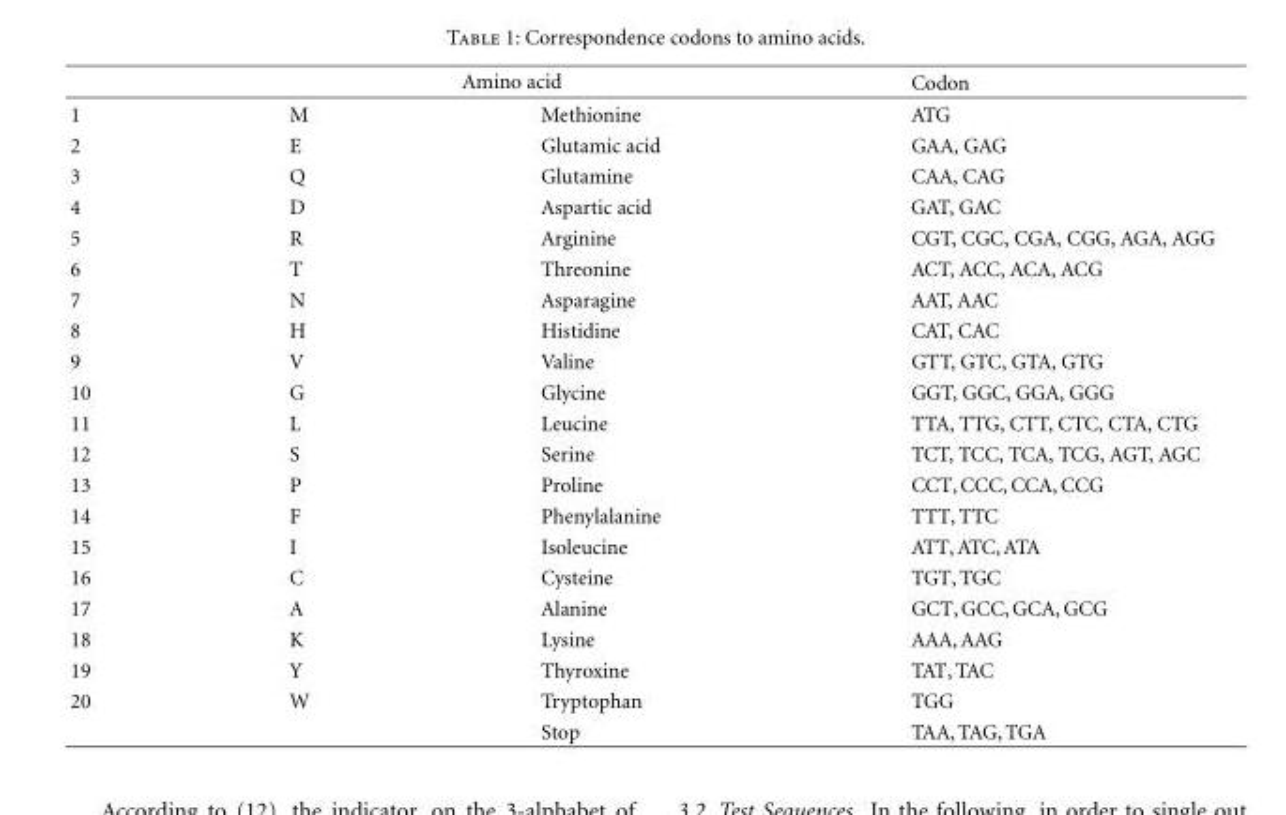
<table><thead><tr><td rowspan="2">1</td><td colspan="2">Amino acid</td><td rowspan="2">Codon ATG</td></tr><tr><td>M</td><td>Methionine</td></tr></thead><tbody><tr><td>2</td><td>E</td><td>Glutamic acid</td><td>GAA, GAG</td></tr><tr><td>3</td><td>Q</td><td>Glutamine</td><td>CAA, CAG</td></tr><tr><td>4</td><td>D</td><td>Aspartic acid</td><td>GAT, GAC</td></tr><tr><td>5</td><td>R</td><td>Arginine</td><td>CGT, CGC, CGA, CGG, AGA, AGG</td></tr><tr><td>6</td><td>T</td><td>Threonine</td><td>ACT, ACC, ACA, ACG</td></tr><tr><td>7</td><td>N</td><td>Asparagine</td><td>AAT, AAC</td></tr><tr><td>8</td><td>H</td><td>Histidine</td><td>CAT, CAC</td></tr><tr><td>9</td><td>V</td><td>Valine</td><td>GTT, GTC, GTA, GTG</td></tr><tr><td>10</td><td>G</td><td>Glycine</td><td>GGT, GGC, GGA, GGG</td></tr><tr><td>11</td><td>L</td><td>Leucine</td><td>TTA, TTG, CTT, CTC, CTA, CTG</td></tr><tr><td>12</td><td>S</td><td>Serine</td><td>TCT, TCC, TCA, TCG, AGT, AGC</td></tr><tr><td>13</td><td>P</td><td>Proline</td><td>CCT,CCC,CCA,CCG</td></tr><tr><td>14</td><td>F</td><td>Phenylalanine</td><td>TTT,TTC</td></tr><tr><td>15</td><td>I</td><td>Isoleucine</td><td>ATT,ATC,ATA</td></tr><tr><td>16</td><td>C</td><td>Cysteine</td><td>TGT,TGC</td></tr><tr><td>17</td><td>A</td><td>Alanine</td><td>GCT,GCC,GCA,GCG</td></tr><tr><td>18</td><td>K</td><td>Lysine</td><td>AAA,AAG</td></tr><tr><td>19</td><td>Y</td><td>Thyroxine</td><td>TAT,TAC</td></tr><tr><td rowspan="2">20</td><td>W</td><td>Tryptophan</td><td>TGG</td></tr><tr><td></td><td>Stop</td><td>TAA,TAG,TGA</td></tr></tbody></table>